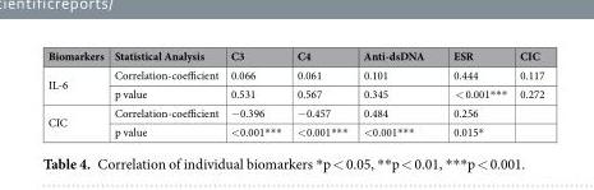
<table><thead><tr><td>Biomarkers</td><td>Statistical Analysis</td><td>C3</td><td>C4</td><td>Anti-dsDNA</td><td>ESR</td><td>CIC</td></tr></thead><tbody><tr><td rowspan="2">IL-6</td><td>Correlation-coefficient</td><td>0.066</td><td>0.061</td><td>0.101</td><td>0.444</td><td>0.117</td></tr><tr><td>p value</td><td>0.531</td><td>0.567</td><td>0.345</td><td>&lt; 0.001***</td><td>0.272</td></tr><tr><td rowspan="2">CIC</td><td>Correlation-coefficient</td><td>−0.396</td><td>−0.457</td><td>0.484</td><td>0.256</td><td></td></tr><tr><td>p value</td><td>&lt;0.001***</td><td>&lt;0.001***</td><td>&lt;0.001***</td><td>0.015*</td><td></td></tr></tbody></table>